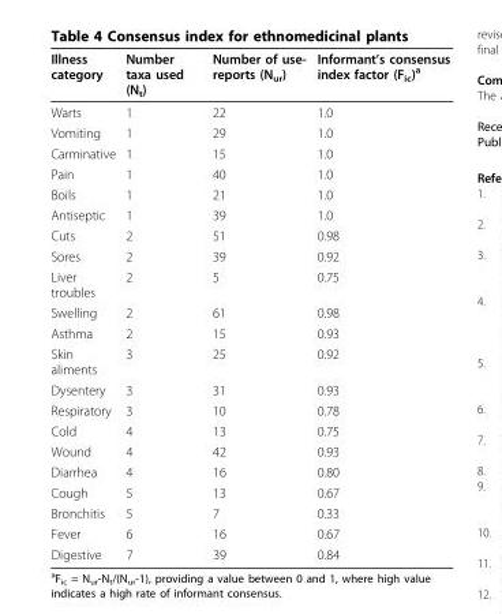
<table><thead><tr><td>Illness category</td><td>Number taxa used (N<sub>t</sub>)</td><td>Number of use- reports (N<sub>ur</sub>)</td><td>Informant’s consensus index factor (F<sub>ic</sub>)<sup>a</sup></td></tr></thead><tbody><tr><td>Warts</td><td>1</td><td>22</td><td>1.0</td></tr><tr><td>Vomiting</td><td>1</td><td>29</td><td>1.0</td></tr><tr><td>Carminative</td><td>1</td><td>15</td><td>1.0</td></tr><tr><td>Pain</td><td>1</td><td>40</td><td>1.0</td></tr><tr><td>Boils</td><td>1</td><td>21</td><td>1.0</td></tr><tr><td>Antiseptic</td><td>1</td><td>39</td><td>1.0</td></tr><tr><td>Cuts</td><td>2</td><td>51</td><td>0.98</td></tr><tr><td>Sores</td><td>2</td><td>39</td><td>0.92</td></tr><tr><td>Liver troubles</td><td>2</td><td>5</td><td>0.75</td></tr><tr><td>Swelling</td><td>2</td><td>61</td><td>0.98</td></tr><tr><td>Asthma</td><td>2</td><td>15</td><td>0.93</td></tr><tr><td>Skin aliments</td><td>3</td><td>25</td><td>0.92</td></tr><tr><td>Dysentery</td><td>3</td><td>31</td><td>0.93</td></tr><tr><td>Respiratory</td><td>3</td><td>10</td><td>0.78</td></tr><tr><td>Cold</td><td>4</td><td>13</td><td>0.75</td></tr><tr><td>Wound</td><td>4</td><td>42</td><td>0.93</td></tr><tr><td>Diarrhea</td><td>4</td><td>16</td><td>0.80</td></tr><tr><td>Cough</td><td>5</td><td>13</td><td>0.67</td></tr><tr><td>Bronchitis</td><td>5</td><td>7</td><td>0.33</td></tr><tr><td>Fever</td><td>6</td><td>16</td><td>0.67</td></tr><tr><td>Digestive</td><td>7</td><td>39</td><td>0.84</td></tr></tbody></table>